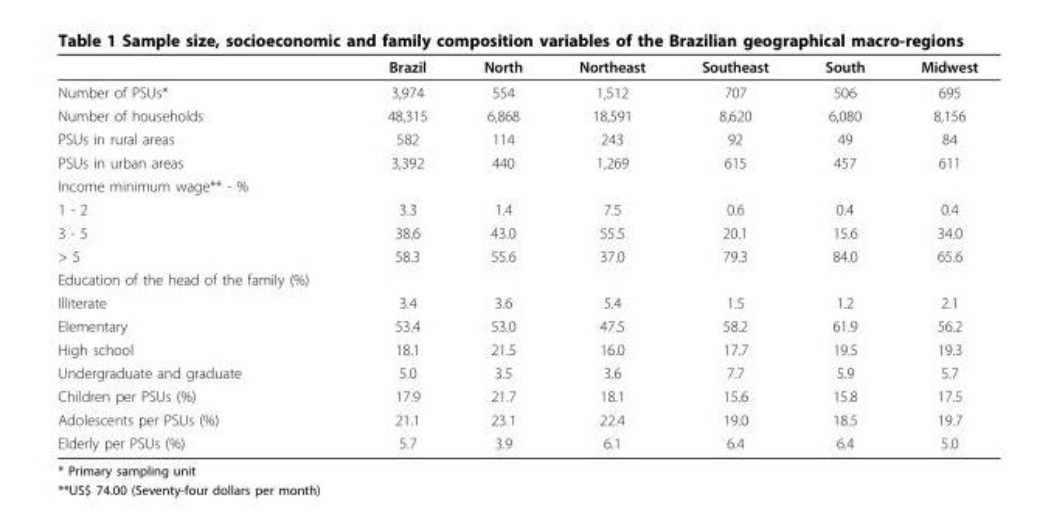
<table><thead><tr><td></td><td>Brazil</td><td>North</td><td>Northeast</td><td>Southeast</td><td>South</td><td>Midwest</td></tr></thead><tbody><tr><td>Number of PSUs*</td><td>3,974</td><td>554</td><td>1,512</td><td>707</td><td>506</td><td>695</td></tr><tr><td>Number of households</td><td>48,315</td><td>6,868</td><td>18,591</td><td>8,620</td><td>6,080</td><td>8,156</td></tr><tr><td>PSUs in rural areas</td><td>582</td><td>114</td><td>243</td><td>92</td><td>49</td><td>84</td></tr><tr><td>PSUs in urban areas</td><td>3,392</td><td>440</td><td>1,269</td><td>615</td><td>457</td><td>611</td></tr><tr><td colspan="7">Income minimum wage** - %</td></tr><tr><td>1 - 2</td><td>3.3</td><td>1.4</td><td>7.5</td><td>0.6</td><td>0.4</td><td>0.4</td></tr><tr><td>3 - 5</td><td>38.6</td><td>43.0</td><td>55.5</td><td>20.1</td><td>15.6</td><td>34.0</td></tr><tr><td>&gt; 5</td><td>58.3</td><td>55.6</td><td>37.0</td><td>79.3</td><td>84.0</td><td>65.6</td></tr><tr><td colspan="7">Education of the head of the family (%)</td></tr><tr><td>Illiterate</td><td>3.4</td><td>3.6</td><td>5.4</td><td>1.5</td><td>1.2</td><td>2.1</td></tr><tr><td>Elementary</td><td>53.4</td><td>53.0</td><td>47.5</td><td>58.2</td><td>61.9</td><td>56.2</td></tr><tr><td>High school</td><td>18.1</td><td>21.5</td><td>16.0</td><td>17.7</td><td>19.5</td><td>19.3</td></tr><tr><td>Undergraduate and graduate</td><td>5.0</td><td>3.5</td><td>3.6</td><td>7.7</td><td>5.9</td><td>5.7</td></tr><tr><td>Children per PSUs (%)</td><td>17.9</td><td>21.7</td><td>18.1</td><td>15.6</td><td>15.8</td><td>17.5</td></tr><tr><td>Adolescents per PSUs (%)</td><td>21.1</td><td>23.1</td><td>22.4</td><td>19.0</td><td>18.5</td><td>19.7</td></tr><tr><td>Elderly per PSUs (%)</td><td>5.7</td><td>3.9</td><td>6.1</td><td>6.4</td><td>6.4</td><td>5.0</td></tr></tbody></table>